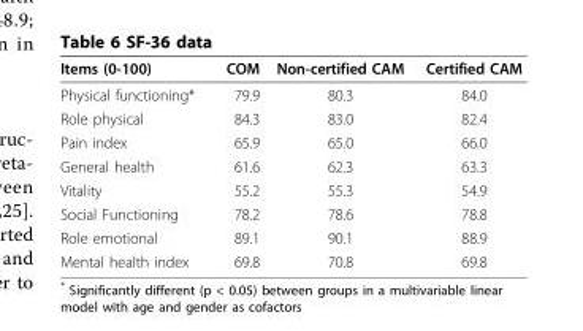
<table><thead><tr><td>Items (0-100)</td><td>COM</td><td>Non-certified CAM</td><td>Certified CAM</td></tr></thead><tbody><tr><td>Physical functioning*</td><td>79.9</td><td>80.3</td><td>84.0</td></tr><tr><td>Role physical</td><td>84.3</td><td>83.0</td><td>82.4</td></tr><tr><td>Pain index</td><td>65.9</td><td>65.0</td><td>66.0</td></tr><tr><td>General health</td><td>61.6</td><td>62.3</td><td>63.3</td></tr><tr><td>Vitality</td><td>55.2</td><td>55.3</td><td>54.9</td></tr><tr><td>Social Functioning</td><td>78.2</td><td>78.6</td><td>78.8</td></tr><tr><td>Role emotional</td><td>89.1</td><td>90.1</td><td>88.9</td></tr><tr><td>Mental health index</td><td>69.8</td><td>70.8</td><td>69.8</td></tr></tbody></table>